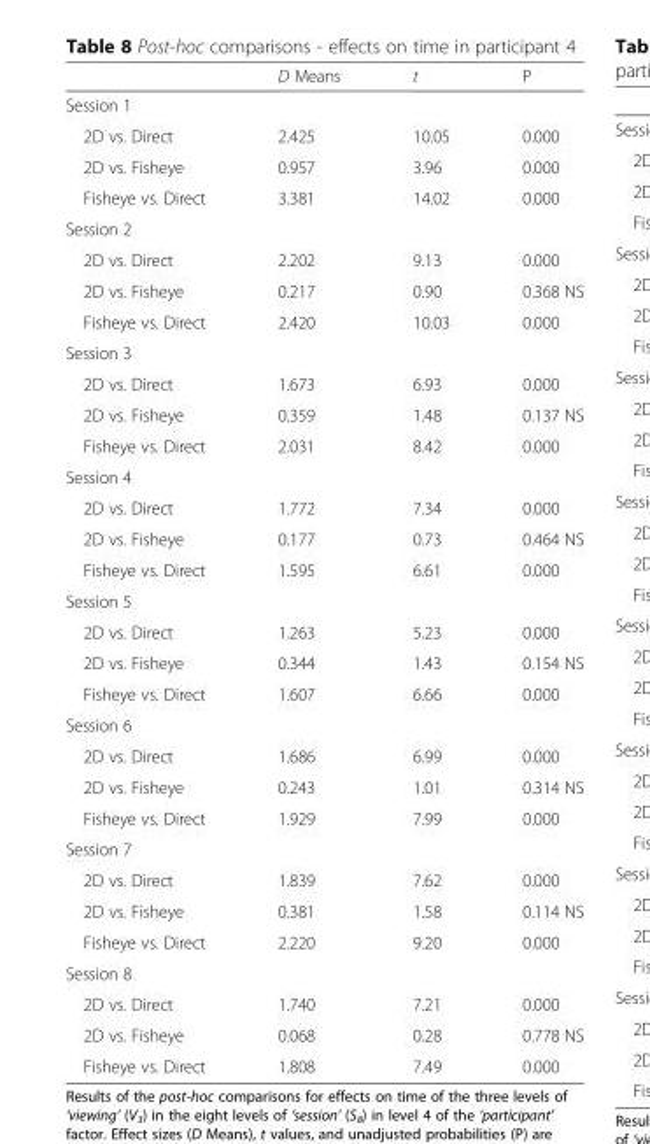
<table><thead><tr><td></td><td>D Means</td><td>t</td><td>P</td></tr></thead><tbody><tr><td colspan="4">Session 1</td></tr><tr><td>2D vs. Direct</td><td>2.425</td><td>10.05</td><td>0.000</td></tr><tr><td>2D vs. Fisheye</td><td>0.957</td><td>3.96</td><td>0.000</td></tr><tr><td>Fisheye vs. Direct</td><td>3.381</td><td>14.02</td><td>0.000</td></tr><tr><td colspan="4">Session 2</td></tr><tr><td>2D vs. Direct</td><td>2.202</td><td>9.13</td><td>0.000</td></tr><tr><td>2D vs. Fisheye</td><td>0.217</td><td>0.90</td><td>0.368 NS</td></tr><tr><td>Fisheye vs. Direct</td><td>2.420</td><td>10.03</td><td>0.000</td></tr><tr><td colspan="4">Session 3</td></tr><tr><td>2D vs. Direct</td><td>1.673</td><td>6.93</td><td>0.000</td></tr><tr><td>2D vs. Fisheye</td><td>0.359</td><td>1.48</td><td>0.137 NS</td></tr><tr><td>Fisheye vs. Direct</td><td>2.031</td><td>8.42</td><td>0.000</td></tr><tr><td colspan="4">Session 4</td></tr><tr><td>2D vs. Direct</td><td>1.772</td><td>7.34</td><td>0.000</td></tr><tr><td>2D vs. Fisheye</td><td>0.177</td><td>0.73</td><td>0.464 NS</td></tr><tr><td>Fisheye vs. Direct</td><td>1.595</td><td>6.61</td><td>0.000</td></tr><tr><td colspan="4">Session 5</td></tr><tr><td>2D vs. Direct</td><td>1.263</td><td>5.23</td><td>0.000</td></tr><tr><td>2D vs. Fisheye</td><td>0.344</td><td>1.43</td><td>0.154 NS</td></tr><tr><td>Fisheye vs. Direct</td><td>1.607</td><td>6.66</td><td>0.000</td></tr><tr><td colspan="4">Session 6</td></tr><tr><td>2D vs. Direct</td><td>1.686</td><td>6.99</td><td>0.000</td></tr><tr><td>2D vs. Fisheye</td><td>0.243</td><td>1.01</td><td>0.314 NS</td></tr><tr><td>Fisheye vs. Direct</td><td>1.929</td><td>7.99</td><td>0.000</td></tr><tr><td colspan="4">Session 7</td></tr><tr><td>2D vs. Direct</td><td>1.839</td><td>7.62</td><td>0.000</td></tr><tr><td>2D vs. Fisheye</td><td>0.381</td><td>1.58</td><td>0.114 NS</td></tr><tr><td>Fisheye vs. Direct</td><td>2.220</td><td>9.20</td><td>0.000</td></tr><tr><td colspan="4">Session 8</td></tr><tr><td>2D vs. Direct</td><td>1.740</td><td>7.21</td><td>0.000</td></tr><tr><td>2D vs. Fisheye</td><td>0.068</td><td>0.28</td><td>0.778 NS</td></tr><tr><td>Fisheye vs. Direct</td><td>1.808</td><td>7.49</td><td>0.000</td></tr></tbody></table>